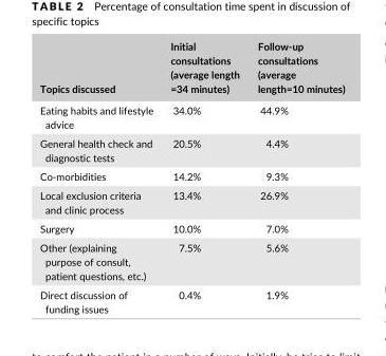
<table><thead><tr><td>Topics discussed</td><td>Initial consultations (average length =34 minutes)</td><td>Follow- up consultations (average length=10 minutes)</td></tr></thead><tbody><tr><td>Eating habits and lifestyle advice</td><td>34.0%</td><td>44.9%</td></tr><tr><td>General health check and diagnostic tests</td><td>20.5%</td><td>4.4%</td></tr><tr><td>Co- morbidities</td><td>14.2%</td><td>9.3%</td></tr><tr><td>Local exclusion criteria and clinic process</td><td>13.4%</td><td>26.9%</td></tr><tr><td>Surgery</td><td>10.0%</td><td>7.0%</td></tr><tr><td>Other (explaining purpose of consult, patient questions, etc.)</td><td>7.5%</td><td>5.6%</td></tr><tr><td>Direct discussion of funding issues</td><td>0.4%</td><td>1.9%</td></tr></tbody></table>